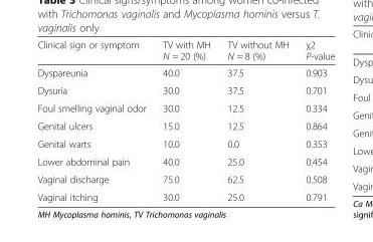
<table><thead><tr><td>Clinical sign or symptom</td><td>TV with MH N = 20 (%)</td><td>TV without MH N = 8 (%)</td><td>χ2 P-value</td></tr></thead><tbody><tr><td>Dyspareunia</td><td>40.0</td><td>37.5</td><td>0.903</td></tr><tr><td>Dysuria</td><td>30.0</td><td>37.5</td><td>0.701</td></tr><tr><td>Foul smelling vaginal odor</td><td>30.0</td><td>12.5</td><td>0.334</td></tr><tr><td>Genital ulcers</td><td>15.0</td><td>12.5</td><td>0.864</td></tr><tr><td>Genital warts</td><td>10.0</td><td>0.0</td><td>0.353</td></tr><tr><td>Lower abdominal pain</td><td>40.0</td><td>25.0</td><td>0.454</td></tr><tr><td>Vaginal discharge</td><td>75.0</td><td>62.5</td><td>0.508</td></tr><tr><td>Vaginal itching</td><td>30.0</td><td>25.0</td><td>0.791</td></tr></tbody></table>